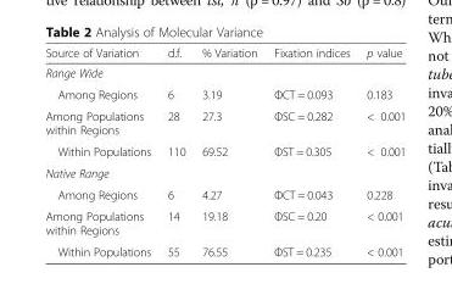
<table><thead><tr><td>Source of Variation</td><td>d.f.</td><td>% Variation</td><td>Fixation indices</td><td>p value</td></tr></thead><tbody><tr><td colspan="5">Range Wide</td></tr><tr><td>Among Regions</td><td>6</td><td>3.19</td><td>ΦCT = 0.093</td><td>0.183</td></tr><tr><td>Among Populations within Regions</td><td>28</td><td>27.3</td><td>ΦSC = 0.282</td><td>&lt; 0.001</td></tr><tr><td>Within Populations</td><td>110</td><td>69.52</td><td>ΦST = 0.305</td><td>&lt; 0.001</td></tr><tr><td colspan="5">Native Range</td></tr><tr><td>Among Regions</td><td>6</td><td>4.27</td><td>ΦCT = 0.043</td><td>0.228</td></tr><tr><td>Among Populations within Regions</td><td>14</td><td>19.18</td><td>ΦSC = 0.20</td><td>&lt; 0.001</td></tr><tr><td>Within Populations</td><td>55</td><td>76.55</td><td>ΦST = 0.235</td><td>&lt; 0.001</td></tr></tbody></table>